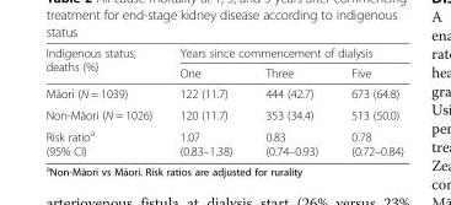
<table><thead><tr><td rowspan="2">Indigenous status, deaths (%)</td><td colspan="3">Years since commencement of dialysis</td></tr><tr><td>One</td><td>Three</td><td>Five</td></tr></thead><tbody><tr><td>Māori (N = 1039)</td><td>122 (11.7)</td><td>444 (42.7)</td><td>673 (64.8)</td></tr><tr><td>Non-Māori (N = 1026)</td><td>120 (11.7)</td><td>353 (34.4)</td><td>513 (50.0)</td></tr><tr><td>Risk ratio<sup>a</sup> (95% CI)</td><td>1.07 (0.83–1.38)</td><td>0.83 (0.74–0.93)</td><td>0.78 (0.72–0.84)</td></tr></tbody></table>